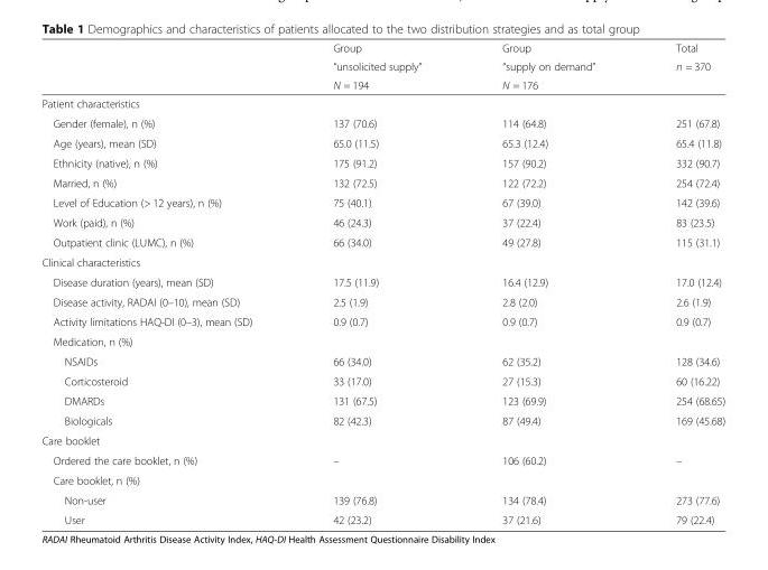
<table><thead><tr><td rowspan="3"></td><td rowspan="3">Group “unsolicited supply” N = 194</td><td rowspan="3">Group “supply on demand” N = 176</td><td rowspan="3">Total n = 370</td></tr><tr></tr><tr></tr></thead><tbody><tr><td colspan="4">Patient characteristics</td></tr><tr><td>Gender (female), n (%)</td><td>137 (70.6)</td><td>114 (64.8)</td><td>251 (67.8)</td></tr><tr><td>Age (years), mean (SD)</td><td>65.0 (11.5)</td><td>65.3 (12.4)</td><td>65.4 (11.8)</td></tr><tr><td>Ethnicity (native), n (%)</td><td>175 (91.2)</td><td>157 (90.2)</td><td>332 (90.7)</td></tr><tr><td>Married, n (%)</td><td>132 (72.5)</td><td>122 (72.2)</td><td>254 (72.4)</td></tr><tr><td>Level of Education (&gt; 12 years), n (%)</td><td>75 (40.1)</td><td>67 (39.0)</td><td>142 (39.6)</td></tr><tr><td>Work (paid), n (%)</td><td>46 (24.3)</td><td>37 (22.4)</td><td>83 (23.5)</td></tr><tr><td>Outpatient clinic (LUMC), n (%)</td><td>66 (34.0)</td><td>49 (27.8)</td><td>115 (31.1)</td></tr><tr><td colspan="4">Clinical characteristics</td></tr><tr><td>Disease duration (years), mean (SD)</td><td>17.5 (11.9)</td><td>16.4 (12.9)</td><td>17.0 (12.4)</td></tr><tr><td>Disease activity, RADAI (0–10), mean (SD)</td><td>2.5 (1.9)</td><td>2.8 (2.0)</td><td>2.6 (1.9)</td></tr><tr><td>Activity limitations HAQ-DI (0–3), mean (SD)</td><td>0.9 (0.7)</td><td>0.9 (0.7)</td><td>0.9 (0.7)</td></tr><tr><td colspan="4">Medication, n (%)</td></tr><tr><td>NSAIDs</td><td>66 (34.0)</td><td>62 (35.2)</td><td>128 (34.6)</td></tr><tr><td>Corticosteroid</td><td>33 (17.0)</td><td>27 (15.3)</td><td>60 (16.22)</td></tr><tr><td>DMARDs</td><td>131 (67.5)</td><td>123 (69.9)</td><td>254 (68.65)</td></tr><tr><td>Biologicals</td><td>82 (42.3)</td><td>87 (49.4)</td><td>169 (45.68)</td></tr><tr><td colspan="4">Care booklet</td></tr><tr><td>Ordered the care booklet, n (%)</td><td>–</td><td>106 (60.2)</td><td>–</td></tr><tr><td colspan="4">Care booklet, n (%)</td></tr><tr><td>Non-user</td><td>139 (76.8)</td><td>134 (78.4)</td><td>273 (77.6)</td></tr><tr><td>User</td><td>42 (23.2)</td><td>37 (21.6)</td><td>79 (22.4)</td></tr></tbody></table>